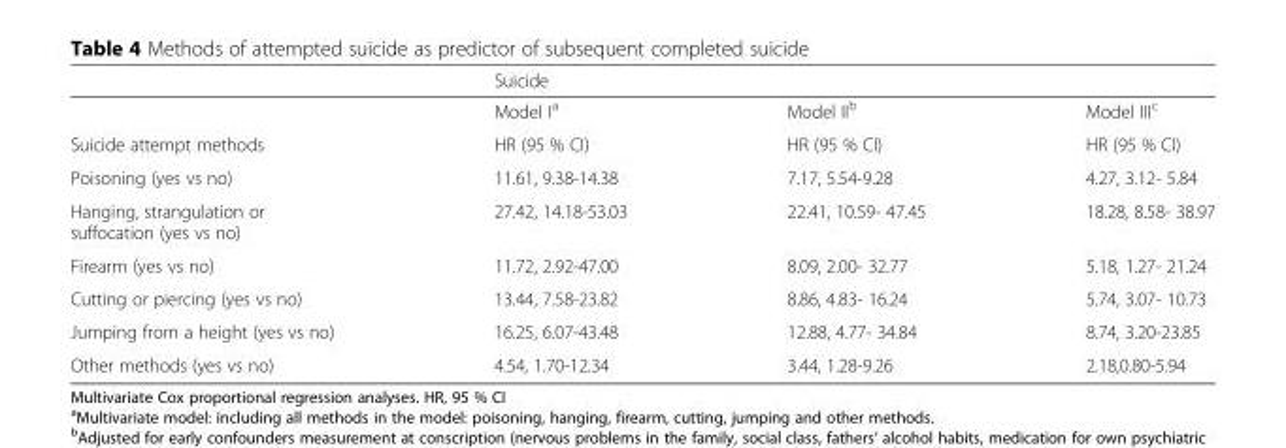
<table><thead><tr><td rowspan="2"></td><td colspan="3">Suicide</td></tr><tr><td>Model I<sup>a</sup></td><td>Model II<sup>b</sup></td><td>Model III<sup>c</sup></td></tr></thead><tbody><tr><td>Suicide attempt methods</td><td>HR (95 % CI)</td><td>HR (95 % CI)</td><td>HR (95 % CI)</td></tr><tr><td>Poisoning (yes vs no)</td><td>11.61, 9.38-14.38</td><td>7.17, 5.54-9.28</td><td>4.27, 3.12- 5.84</td></tr><tr><td>Hanging, strangulation or suffocation (yes vs no)</td><td>27.42, 14.18-53.03</td><td>22.41, 10.59- 47.45</td><td>18.28, 8.58- 38.97</td></tr><tr><td>Firearm (yes vs no)</td><td>11.72, 2.92-47.00</td><td>8.09, 2.00- 32.77</td><td>5.18, 1.27- 21.24</td></tr><tr><td>Cutting or piercing (yes vs no)</td><td>13.44, 7.58-23.82</td><td>8.86, 4.83- 16.24</td><td>5.74, 3.07- 10.73</td></tr><tr><td>Jumping from a height (yes vs no)</td><td>16.25, 6.07-43.48</td><td>12.88, 4.77- 34.84</td><td>8.74, 3.20-23.85</td></tr><tr><td>Other methods (yes vs no)</td><td>4.54, 1.70-12.34</td><td>3.44, 1.28-9.26</td><td>2.18,0.80-5.94</td></tr></tbody></table>